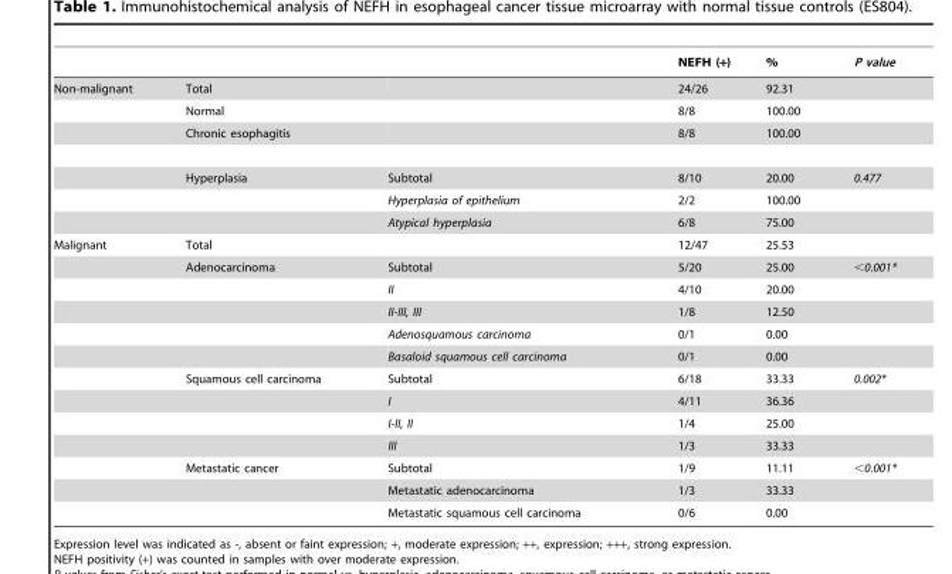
<table><thead><tr><td></td><td></td><td></td><td>NEFH (+)</td><td>%</td><td>P value</td></tr></thead><tbody><tr><td rowspan="6">Non-malignant</td><td>Total</td><td></td><td>24/26</td><td>92.31</td><td></td></tr><tr><td>Normal</td><td></td><td>8/8</td><td>100.00</td><td></td></tr><tr><td>Chronic esophagitis</td><td></td><td>8/8</td><td>100.00</td><td></td></tr><tr><td>Hyperplasia</td><td>Subtotal</td><td>8/10</td><td>20.00</td><td>0.477</td></tr><tr><td></td><td>Hyperplasia of epithelium</td><td>2/2</td><td>100.00</td><td></td></tr><tr><td></td><td>Atypical hyperplasia</td><td>6/8</td><td>75.00</td><td></td></tr><tr><td rowspan="13">Malignant</td><td>Total</td><td></td><td>12/47</td><td>25.53</td><td></td></tr><tr><td>Adenocarcinoma</td><td>Subtotal</td><td>5/20</td><td>25.00</td><td>&lt;0.001*</td></tr><tr><td></td><td>II</td><td>4/10</td><td>20.00</td><td></td></tr><tr><td></td><td>II-III, III</td><td>1/8</td><td>12.50</td><td></td></tr><tr><td></td><td>Adenosquamous carcinoma</td><td>0/1</td><td>0.00</td><td></td></tr><tr><td></td><td>Basaloid squamous cell carcinoma</td><td>0/1</td><td>0.00</td><td></td></tr><tr><td>Squamous cell carcinoma</td><td>Subtotal</td><td>6/18</td><td>33.33</td><td>0.002*</td></tr><tr><td></td><td>I</td><td>4/11</td><td>36.36</td><td></td></tr><tr><td></td><td>I-II, II</td><td>1/4</td><td>25.00</td><td></td></tr><tr><td></td><td>III</td><td>1/3</td><td>33.33</td><td></td></tr><tr><td>Metastatic cancer</td><td>Subtotal</td><td>1/9</td><td>11.11</td><td>&lt;0.001*</td></tr><tr><td></td><td>Metastatic adenocarcinoma</td><td>1/3</td><td>33.33</td><td></td></tr><tr><td></td><td>Metastatic squamous cell carcinoma</td><td>0/6</td><td>0.00</td><td></td></tr></tbody></table>